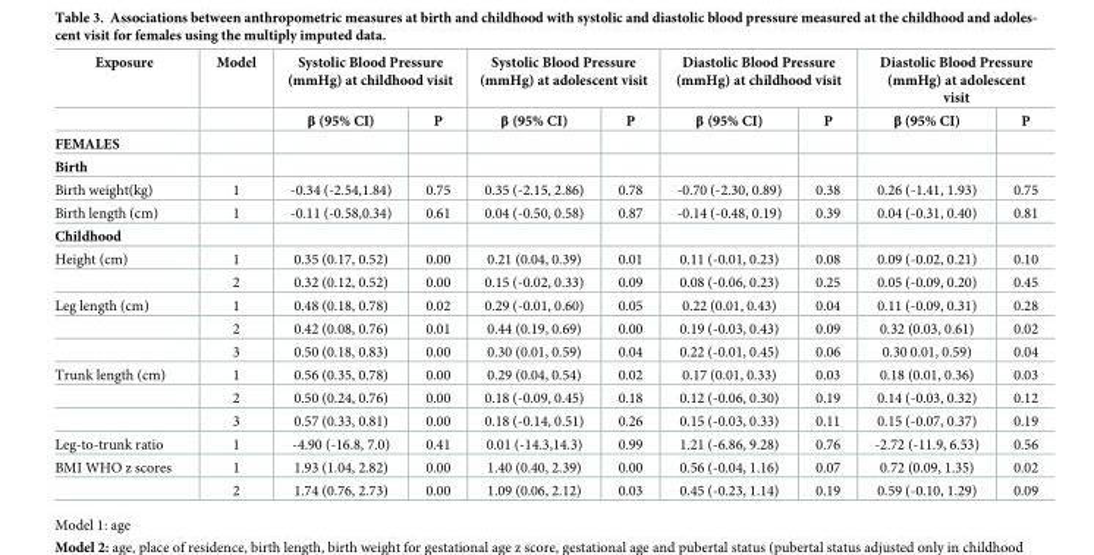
<table><thead><tr><td rowspan="2">Exposure</td><td rowspan="2">Model</td><td colspan="2">Systolic Blood Pressure (mmHg) at childhood visit</td><td colspan="2">Systolic Blood Pressure (mmHg) at adolescent visit</td><td colspan="2">Diastolic Blood Pressure (mmHg) at childhood visit</td><td colspan="2">Diastolic Blood Pressure (mmHg) at adolescent visit</td></tr><tr><td>β (95% CI)</td><td>P</td><td>β (95% CI)</td><td>P</td><td>β (95% CI)</td><td>P</td><td>β (95% CI)</td><td>P</td></tr></thead><tbody><tr><td colspan="10">FEMALES</td></tr><tr><td colspan="10">Birth</td></tr><tr><td>Birth weight(kg)</td><td>1</td><td>-0.34 (-2.54,1.84)</td><td>0.75</td><td>0.35 (-2.15, 2.86)</td><td>0.78</td><td>-0.70 (-2.30, 0.89)</td><td>0.38</td><td>0.26 (-1.41, 1.93)</td><td>0.75</td></tr><tr><td>Birth length (cm)</td><td>1</td><td>-0.11 (-0.58,0.34)</td><td>0.61</td><td>0.04 (-0.50, 0.58)</td><td>0.87</td><td>-0.14 (-0.48, 0.19)</td><td>0.39</td><td>0.04 (-0.31, 0.40)</td><td>0.81</td></tr><tr><td colspan="10">Childhood</td></tr><tr><td rowspan="2">Height (cm)</td><td>1</td><td>0.35 (0.17, 0.52)</td><td>0.00</td><td>0.21 (0.04, 0.39)</td><td>0.01</td><td>0.11 (-0.01, 0.23)</td><td>0.08</td><td>0.09 (-0.02, 0.21)</td><td>0.10</td></tr><tr><td>2</td><td>0.32 (0.12, 0.52)</td><td>0.00</td><td>0.15 (-0.02, 0.33)</td><td>0.09</td><td>0.08 (-0.06, 0.23)</td><td>0.25</td><td>0.05 (-0.09, 0.20)</td><td>0.45</td></tr><tr><td rowspan="3">Leg length (cm)</td><td>1</td><td>0.48 (0.18, 0.78)</td><td>0.02</td><td>0.29 (-0.01, 0.60)</td><td>0.05</td><td>0.22 (0.01, 0.43)</td><td>0.04</td><td>0.11 (-0.09, 0.31)</td><td>0.28</td></tr><tr><td>2</td><td>0.42 (0.08, 0.76)</td><td>0.01</td><td>0.44 (0.19, 0.69)</td><td>0.00</td><td>0.19 (-0.03, 0.43)</td><td>0.09</td><td>0.32 (0.03, 0.61)</td><td>0.02</td></tr><tr><td>3</td><td>0.50 (0.18, 0.83)</td><td>0.00</td><td>0.30 (0.01, 0.59)</td><td>0.04</td><td>0.22 (-0.01, 0.45)</td><td>0.06</td><td>0.30 0.01, 0.59)</td><td>0.04</td></tr><tr><td rowspan="3">Trunk length (cm)</td><td>1</td><td>0.56 (0.35, 0.78)</td><td>0.00</td><td>0.29 (0.04, 0.54)</td><td>0.02</td><td>0.17 (0.01, 0.33)</td><td>0.03</td><td>0.18 (0.01, 0.36)</td><td>0.03</td></tr><tr><td>2</td><td>0.50 (0.24, 0.76)</td><td>0.00</td><td>0.18 (-0.09, 0.45)</td><td>0.18</td><td>0.12 (-0.06, 0.30)</td><td>0.19</td><td>0.14 (-0.03, 0.32)</td><td>0.12</td></tr><tr><td>3</td><td>0.57 (0.33, 0.81)</td><td>0.00</td><td>0.18 (-0.14, 0.51)</td><td>0.26</td><td>0.15 (-0.03, 0.33)</td><td>0.11</td><td>0.15 (-0.07, 0.37)</td><td>0.19</td></tr><tr><td>Leg-to-trunk ratio</td><td>1</td><td>-4.90 (-16.8, 7.0)</td><td>0.41</td><td>0.01 (-14.3,14.3)</td><td>0.99</td><td>1.21 (-6.86, 9.28)</td><td>0.76</td><td>-2.72 (-11.9, 6.53)</td><td>0.56</td></tr><tr><td rowspan="2">BMI WHO z scores</td><td>1</td><td>1.93 (1.04, 2.82)</td><td>0.00</td><td>1.40 (0.40, 2.39)</td><td>0.00</td><td>0.56 (-0.04, 1.16)</td><td>0.07</td><td>0.72 (0.09, 1.35)</td><td>0.02</td></tr><tr><td>2</td><td>1.74 (0.76, 2.73)</td><td>0.00</td><td>1.09 (0.06, 2.12)</td><td>0.03</td><td>0.45 (-0.23, 1.14)</td><td>0.19</td><td>0.59 (-0.10, 1.29)</td><td>0.09</td></tr></tbody></table>